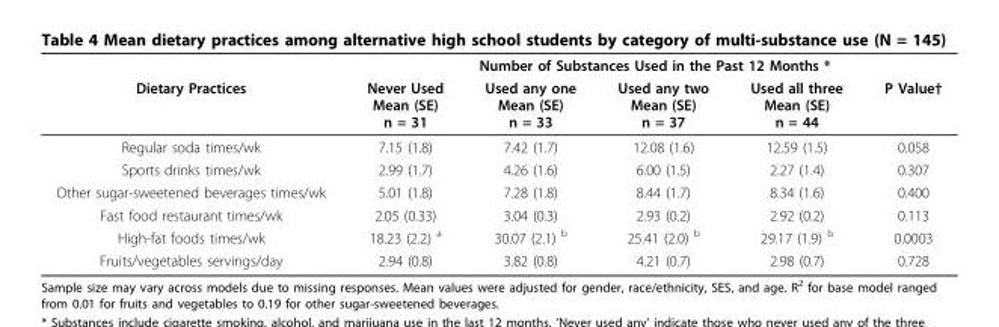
<table><thead><tr><td rowspan="2">Dietary Practices</td><td colspan="5">Number of Substances Used in the Past 12 Months *</td></tr><tr><td>Never Used Mean (SE) n = 31</td><td>Used any one Mean (SE) n = 33</td><td>Used any two Mean (SE) n = 37</td><td>Used all three Mean (SE) n = 44</td><td>P Value†</td></tr></thead><tbody><tr><td>Regular soda times/wk</td><td>7.15 (1.8)</td><td>7.42 (1.7)</td><td>12.08 (1.6)</td><td>12.59 (1.5)</td><td>0.058</td></tr><tr><td>Sports drinks times/wk</td><td>2.99 (1.7)</td><td>4.26 (1.6)</td><td>6.00 (1.5)</td><td>2.27 (1.4)</td><td>0.307</td></tr><tr><td>Other sugar-sweetened beverages times/wk</td><td>5.01 (1.8)</td><td>7.28 (1.8)</td><td>8.44 (1.7)</td><td>8.34 (1.6)</td><td>0.400</td></tr><tr><td>Fast food restaurant times/wk</td><td>2.05 (0.33)</td><td>3.04 (0.3)</td><td>2.93 (0.2)</td><td>2.92 (0.2)</td><td>0.113</td></tr><tr><td>High-fat foods times/wk</td><td>18.23 (2.2) <sup>a</sup></td><td>30.07 (2.1) <sup>b</sup></td><td>25.41 (2.0) <sup>b</sup></td><td>29.17 (1.9) <sup>b</sup></td><td>0.0003</td></tr><tr><td>Fruits/vegetables servings/day</td><td>2.94 (0.8)</td><td>3.82 (0.8)</td><td>4.21 (0.7)</td><td>2.98 (0.7)</td><td>0.728</td></tr></tbody></table>